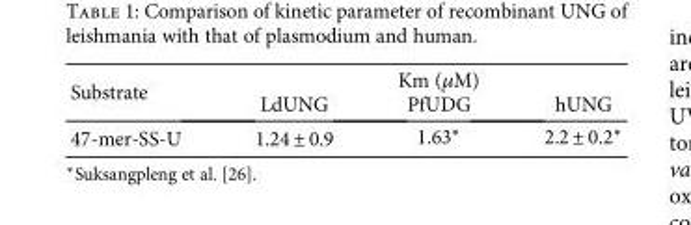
<table><thead><tr><td rowspan="2">Substrate</td><td colspan="3">Km (μM)</td></tr><tr><td>LdUNG</td><td>PfUDG</td><td>hUNG</td></tr></thead><tbody><tr><td>47-mer-SS-U</td><td>1.24 ± 0.9</td><td>1.63∗</td><td>2.2 ± 0.2∗</td></tr></tbody></table>